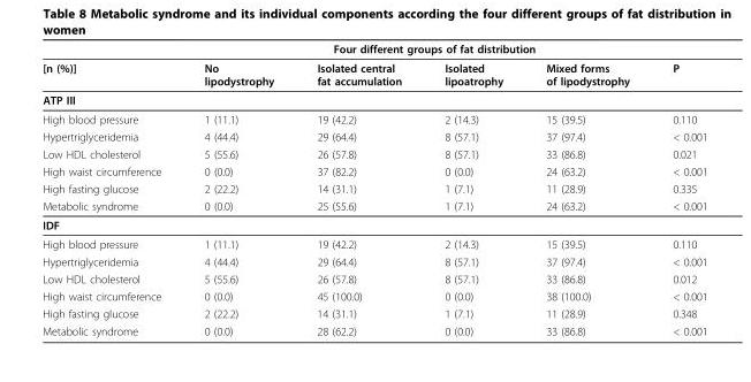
<table><thead><tr><td rowspan="2">[n (%)]</td><td colspan="4">Four different groups of fat distribution</td><td rowspan="2">P</td></tr><tr><td>No lipodystrophy</td><td>Isolated central fat accumulation</td><td>Isolated lipoatrophy</td><td>Mixed forms of lipodystrophy</td></tr></thead><tbody><tr><td colspan="6">ATP III</td></tr><tr><td>High blood pressure</td><td>1 (11.1)</td><td>19 (42.2)</td><td>2 (14.3)</td><td>15 (39.5)</td><td>0.110</td></tr><tr><td>Hypertriglyceridemia</td><td>4 (44.4)</td><td>29 (64.4)</td><td>8 (57.1)</td><td>37 (97.4)</td><td>&lt; 0.001</td></tr><tr><td>Low HDL cholesterol</td><td>5 (55.6)</td><td>26 (57.8)</td><td>8 (57.1)</td><td>33 (86.8)</td><td>0.021</td></tr><tr><td>High waist circumference</td><td>0 (0.0)</td><td>37 (82.2)</td><td>0 (0.0)</td><td>24 (63.2)</td><td>&lt; 0.001</td></tr><tr><td>High fasting glucose</td><td>2 (22.2)</td><td>14 (31.1)</td><td>1 (7.1)</td><td>11 (28.9)</td><td>0.335</td></tr><tr><td>Metabolic syndrome</td><td>0 (0.0)</td><td>25 (55.6)</td><td>1 (7.1)</td><td>24 (63.2)</td><td>&lt; 0.001</td></tr><tr><td colspan="6">IDF</td></tr><tr><td>High blood pressure</td><td>1 (11.1)</td><td>19 (42.2)</td><td>2 (14.3)</td><td>15 (39.5)</td><td>0.110</td></tr><tr><td>Hypertriglyceridemia</td><td>4 (44.4)</td><td>29 (64.4)</td><td>8 (57.1)</td><td>37 (97.4)</td><td>&lt; 0.001</td></tr><tr><td>Low HDL cholesterol</td><td>5 (55.6)</td><td>26 (57.8)</td><td>8 (57.1)</td><td>33 (86.8)</td><td>0.012</td></tr><tr><td>High waist circumference</td><td>0 (0.0)</td><td>45 (100.0)</td><td>0 (0.0)</td><td>38 (100.0)</td><td>&lt; 0.001</td></tr><tr><td>High fasting glucose</td><td>2 (22.2)</td><td>14 (31.1)</td><td>1 (7.1)</td><td>11 (28.9)</td><td>0.348</td></tr><tr><td>Metabolic syndrome</td><td>0 (0.0)</td><td>28 (62.2)</td><td>0 (0.0)</td><td>33 (86.8)</td><td>&lt; 0.001</td></tr></tbody></table>